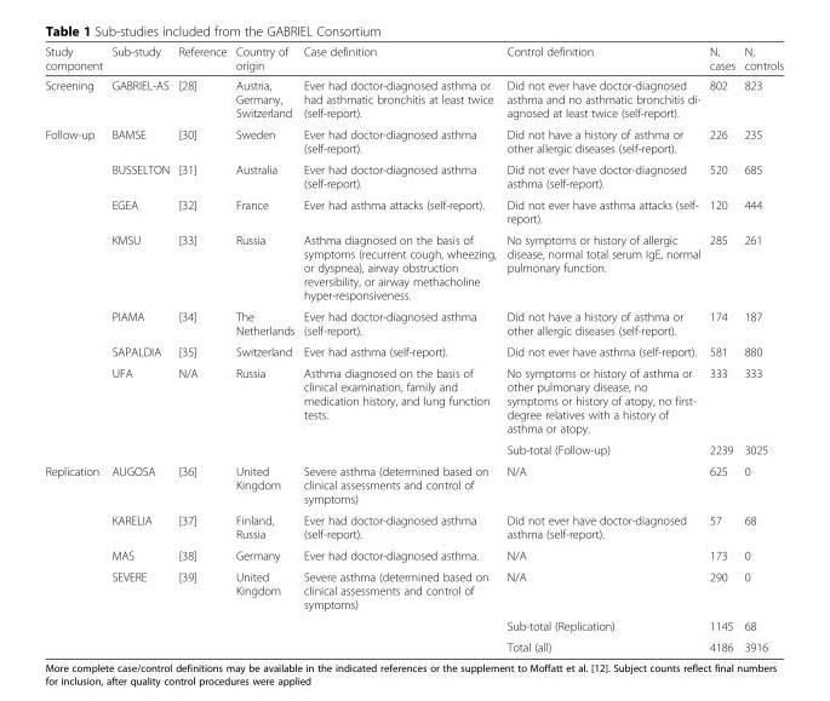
<table><thead><tr><td>Study component</td><td>Sub-study</td><td>Reference</td><td>Country of origin</td><td>Case definition</td><td>Control definition</td><td>N, cases</td><td>N, controls</td></tr></thead><tbody><tr><td>Screening</td><td>GABRIEL-AS</td><td>[28]</td><td>Austria, Germany, Switzerland</td><td>Ever had doctor-diagnosed asthma or had asthmatic bronchitis at least twice (self-report).</td><td>Did not ever have doctor-diagnosed asthma and no asthmatic bronchitis di- agnosed at least twice (self-report).</td><td>802</td><td>823</td></tr><tr><td rowspan="7">Follow-up</td><td>BAMSE</td><td>[30]</td><td>Sweden</td><td>Ever had doctor-diagnosed asthma (self-report).</td><td>Did not have a history of asthma or other allergic diseases (self-report).</td><td>226</td><td>235</td></tr><tr><td>BUSSELTON</td><td>[31]</td><td>Australia</td><td>Ever had doctor-diagnosed asthma (self-report).</td><td>Did not ever have doctor-diagnosed asthma (self-report).</td><td>520</td><td>685</td></tr><tr><td>EGEA</td><td>[32]</td><td>France</td><td>Ever had asthma attacks (self-report).</td><td>Did not ever have asthma attacks (self- report).</td><td>120</td><td>444</td></tr><tr><td>KMSU</td><td>[33]</td><td>Russia</td><td>Asthma diagnosed on the basis of symptoms (recurrent cough, wheezing, or dyspnea), airway obstruction reversibility, or airway methacholine hyper-responsiveness.</td><td>No symptoms or history of allergic disease, normal total serum IgE, normal pulmonary function.</td><td>285</td><td>261</td></tr><tr><td>PIAMA</td><td>[34]</td><td>The Netherlands</td><td>Ever had doctor-diagnosed asthma (self-report).</td><td>Did not have a history of asthma or other allergic diseases (self-report).</td><td>174</td><td>187</td></tr><tr><td>SAPALDIA</td><td>[35]</td><td>Switzerland</td><td>Ever had asthma (self-report).</td><td>Did not ever have asthma (self-report).</td><td>581</td><td>880</td></tr><tr><td>UFA</td><td>N/A</td><td>Russia</td><td>Asthma diagnosed on the basis of clinical examination, family and medication history, and lung function tests.</td><td>No symptoms or history of asthma or other pulmonary disease, no symptoms or history of atopy, no first- degree relatives with a history of asthma or atopy.</td><td>333</td><td>333</td></tr><tr><td colspan="5"></td><td>Sub-total (Follow-up)</td><td>2239</td><td>3025</td></tr><tr><td rowspan="4">Replication</td><td>AUGOSA</td><td>[36]</td><td>United Kingdom</td><td>Severe asthma (determined based on clinical assessments and control of symptoms)</td><td>N/A</td><td>625</td><td>0</td></tr><tr><td>KARELIA</td><td>[37]</td><td>Finland, Russia</td><td>Ever had doctor-diagnosed asthma (self-report).</td><td>Did not ever have doctor-diagnosed asthma (self-report).</td><td>57</td><td>68</td></tr><tr><td>MAS</td><td>[38]</td><td>Germany</td><td>Ever had doctor-diagnosed asthma.</td><td>N/A</td><td>173</td><td>0</td></tr><tr><td>SEVERE</td><td>[39]</td><td>United Kingdom</td><td>Severe asthma (determined based on clinical assessments and control of symptoms)</td><td>N/A</td><td>290</td><td>0</td></tr><tr><td colspan="5"></td><td>Sub-total (Replication)</td><td>1145</td><td>68</td></tr><tr><td colspan="5"></td><td>Total (all)</td><td>4186</td><td>3916</td></tr></tbody></table>